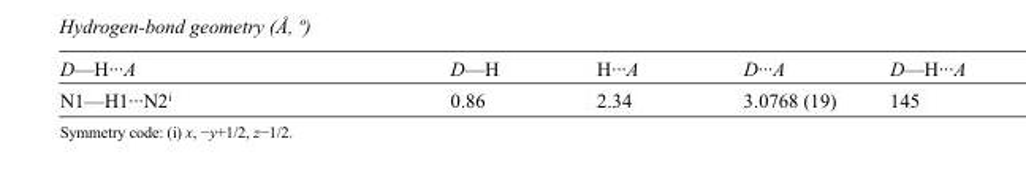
<table><tbody><tr><td>D—H···A</td><td>D—H</td><td>H···A</td><td>D···A</td><td>D—H···A</td></tr><tr><td>N1—H1···N2<sup>i</sup></td><td>0.86</td><td>2.34</td><td>3.0768 (19)</td><td>145</td></tr></tbody></table>